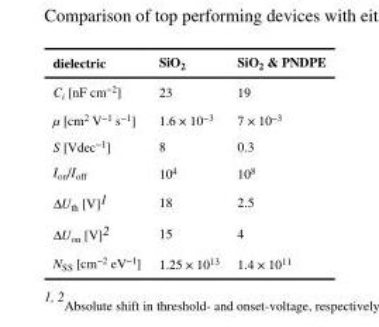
<table><thead><tr><td>dielectric</td><td>SiO<sub>2</sub></td><td>SiO<sub>2</sub> &amp; PNDPE</td></tr></thead><tbody><tr><td>C<sub>i</sub> [nF cm<sup>−2</sup>]</td><td>23</td><td>19</td></tr><tr><td>μ [cm<sup>2</sup> V<sup>−1</sup> s<sup>−1</sup>]</td><td>1.6 × 10<sup>−3</sup></td><td>7 × 10<sup>−3</sup></td></tr><tr><td>S [Vdec<sup>−1</sup>]</td><td>8</td><td>0.3</td></tr><tr><td>I<sub>on</sub>/I<sub>off</sub></td><td>10<sup>4</sup></td><td>10<sup>8</sup></td></tr><tr><td>ΔU<sub>th</sub> [V]<sup>1</sup></td><td>18</td><td>2.5</td></tr><tr><td>ΔU<sub>on</sub> [V]<sup>2</sup></td><td>15</td><td>4</td></tr><tr><td>N<sub>SS</sub> [cm<sup>−2</sup> eV<sup>−1</sup>]</td><td>1.25 × 10<sup>13</sup></td><td>1.4 × 10<sup>11</sup></td></tr></tbody></table>